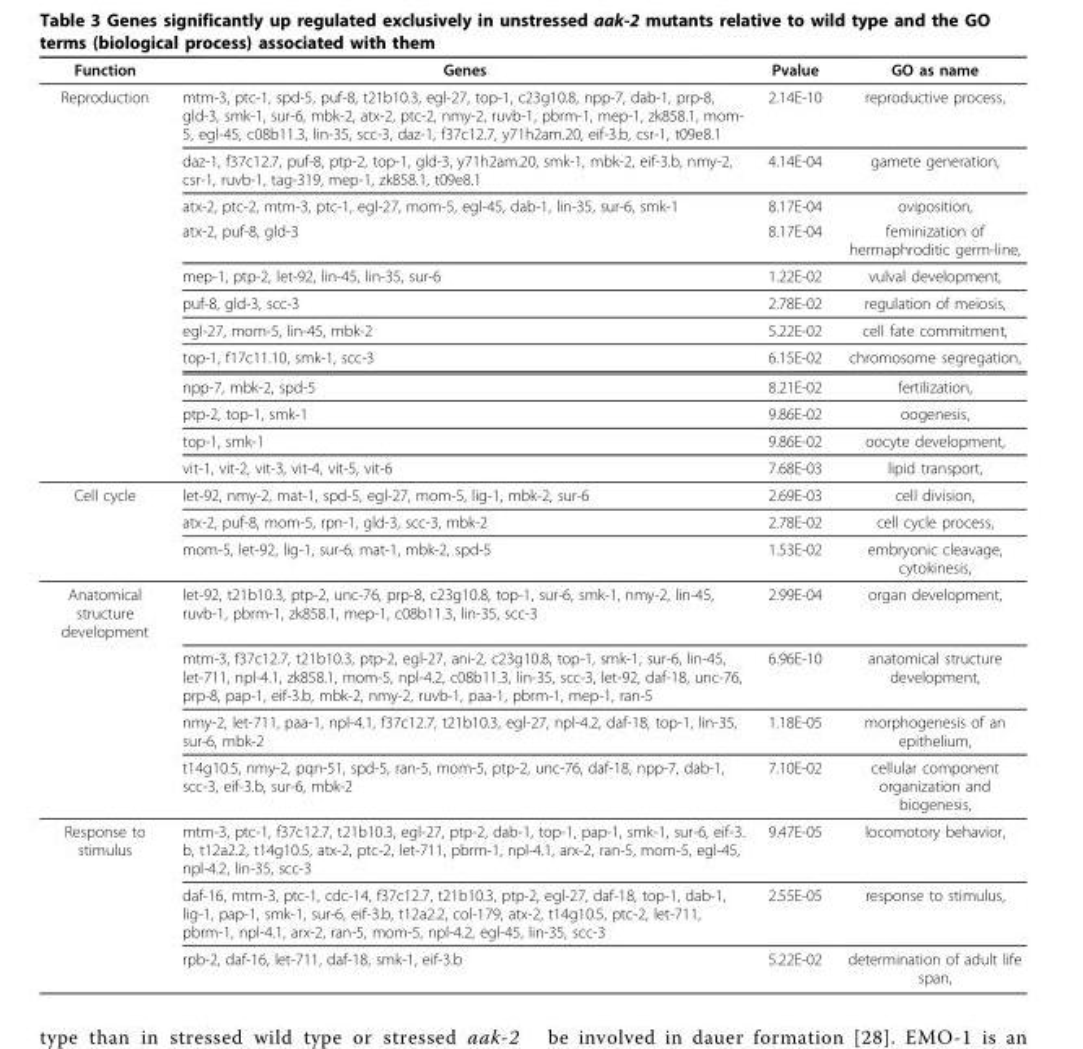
<table><thead><tr><td>Function</td><td>Genes</td><td>Pvalue</td><td>GO as name</td></tr></thead><tbody><tr><td rowspan="12">Reproduction</td><td>mtm-3, ptc-1, spd-5, puf-8, t21b10.3, egl-27, top-1, c23g10.8, npp-7, dab-1, prp-8, gld-3, smk-1, sur-6, mbk-2, atx-2, ptc-2, nmy-2, ruvb-1, pbrm-1, mep-1, zk858.1, mom- 5, egl-45, c08b11.3, lin-35, scc-3, daz-1, f37c12.7, y71h2am.20, eif-3.b, csr-1, t09e8.1</td><td>2.14E-10</td><td>reproductive process,</td></tr><tr><td>daz-1, f37c12.7, puf-8, ptp-2, top-1, gld-3, y71h2am.20, smk-1, mbk-2, eif-3.b, nmy-2, csr-1, ruvb-1, tag-319, mep-1, zk858.1, t09e8.1</td><td>4.14E-04</td><td>gamete generation,</td></tr><tr><td>atx-2, ptc-2, mtm-3, ptc-1, egl-27, mom-5, egl-45, dab-1, lin-35, sur-6, smk-1</td><td>8.17E-04</td><td>oviposition,</td></tr><tr><td>atx-2, puf-8, gld-3</td><td>8.17E-04</td><td>feminization of hermaphroditic germ-line,</td></tr><tr><td>mep-1, ptp-2, let-92, lin-45, lin-35, sur-6</td><td>1.22E-02</td><td>vulval development,</td></tr><tr><td>puf-8, gld-3, scc-3</td><td>2.78E-02</td><td>regulation of meiosis,</td></tr><tr><td>egl-27, mom-5, lin-45, mbk-2</td><td>5.22E-02</td><td>cell fate commitment,</td></tr><tr><td>top-1, f17c11.10, smk-1, scc-3</td><td>6.15E-02</td><td>chromosome segregation,</td></tr><tr><td>npp-7, mbk-2, spd-5</td><td>8.21E-02</td><td>fertilization,</td></tr><tr><td>ptp-2, top-1, smk-1</td><td>9.86E-02</td><td>oogenesis,</td></tr><tr><td>top-1, smk-1</td><td>9.86E-02</td><td>oocyte development,</td></tr><tr><td>vit-1, vit-2, vit-3, vit-4, vit-5, vit-6</td><td>7.68E-03</td><td>lipid transport,</td></tr><tr><td rowspan="3">Cell cycle</td><td>let-92, nmy-2, mat-1, spd-5, egl-27, mom-5, lig-1, mbk-2, sur-6</td><td>2.69E-03</td><td>cell division,</td></tr><tr><td>atx-2, puf-8, mom-5, rpn-1, gld-3, scc-3, mbk-2</td><td>2.78E-02</td><td>cell cycle process,</td></tr><tr><td>mom-5, let-92, lig-1, sur-6, mat-1, mbk-2, spd-5</td><td>1.53E-02</td><td>embryonic cleavage, cytokinesis,</td></tr><tr><td rowspan="4">Anatomical structure development</td><td>let-92, t21b10.3, ptp-2, unc-76, prp-8, c23g10.8, top-1, sur-6, smk-1, nmy-2, lin-45, ruvb-1, pbrm-1, zk858.1, mep-1, c08b11.3, lin-35, scc-3</td><td>2.99E-04</td><td>organ development,</td></tr><tr><td>mtm-3, f37c12.7, t21b10.3, ptp-2, egl-27, ani-2, c23g10.8, top-1, smk-1, sur-6, lin-45, let-711, npl-4.1, zk858.1, mom-5, npl-4.2, c08b11.3, lin-35, scc-3, let-92, daf-18, unc-76, prp-8, pap-1, eif-3.b, mbk-2, nmy-2, ruvb-1, paa-1, pbrm-1, mep-1, ran-5</td><td>6.96E-10</td><td>anatomical structure development,</td></tr><tr><td>nmy-2, let-711, paa-1, npl-4.1, f37c12.7, t21b10.3, egl-27, npl-4.2, daf-18, top-1, lin-35, sur-6, mbk-2</td><td>1.18E-05</td><td>morphogenesis of an epithelium,</td></tr><tr><td>t14g10.5, nmy-2, pqn-51, spd-5, ran-5, mom-5, ptp-2, unc-76, daf-18, npp-7, dab-1, scc-3, eif-3.b, sur-6, mbk-2</td><td>7.10E-02</td><td>cellular component organization and biogenesis,</td></tr><tr><td rowspan="3">Response to stimulus</td><td>mtm-3, ptc-1, f37c12.7, t21b10.3, egl-27, ptp-2, dab-1, top-1, pap-1, smk-1, sur-6, eif-3. b, t12a2.2, t14g10.5, atx-2, ptc-2, let-711, pbrm-1, npl-4.1, arx-2, ran-5, mom-5, egl-45, npl-4.2, lin-35, scc-3</td><td>9.47E-05</td><td>locomotory behavior,</td></tr><tr><td>daf-16, mtm-3, ptc-1, cdc-14, f37c12.7, t21b10.3, ptp-2, egl-27, daf-18, top-1, dab-1, lig-1, pap-1, smk-1, sur-6, eif-3.b, t12a2.2, col-179, atx-2, t14g10.5, ptc-2, let-711, pbrm-1, npl-4.1, arx-2, ran-5, mom-5, npl-4.2, egl-45, lin-35, scc-3</td><td>2.55E-05</td><td>response to stimulus,</td></tr><tr><td>rpb-2, daf-16, let-711, daf-18, smk-1, eif-3.b</td><td>5.22E-02</td><td>determination of adult life span,</td></tr></tbody></table>